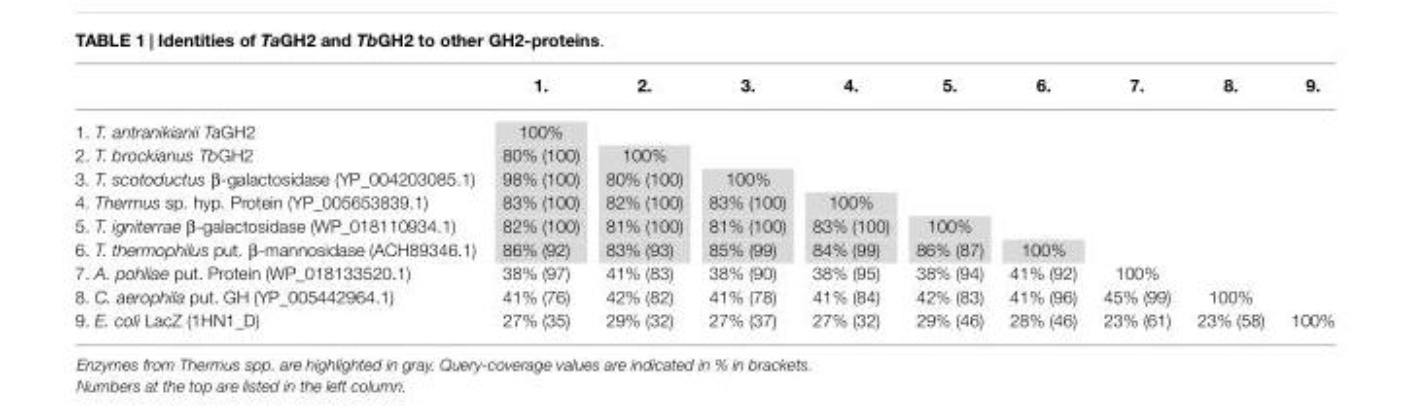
<table><thead><tr><td></td><td>1.</td><td>2.</td><td>3.</td><td>4.</td><td>5.</td><td>6.</td><td>7.</td><td>8.</td><td>9.</td></tr></thead><tbody><tr><td>1. T. antranikianii TaGH2</td><td>100%</td><td></td><td></td><td></td><td></td><td></td><td></td><td></td><td></td></tr><tr><td>2. T. brockianus TbGH2</td><td>80% (100)</td><td>100%</td><td></td><td></td><td></td><td></td><td></td><td></td><td></td></tr><tr><td>3. T. scotoductus β-galactosidase (YP_004203085.1)</td><td>98% (100)</td><td>80% (100)</td><td>100%</td><td></td><td></td><td></td><td></td><td></td><td></td></tr><tr><td>4. Thermus sp. hyp. Protein (YP_005653839.1)</td><td>83% (100)</td><td>82% (100)</td><td>83% (100)</td><td>100%</td><td></td><td></td><td></td><td></td><td></td></tr><tr><td>5. T. igniterrae β-galactosidase (WP_018110934.1)</td><td>82% (100)</td><td>81% (100)</td><td>81% (100)</td><td>83% (100)</td><td>100%</td><td></td><td></td><td></td><td></td></tr><tr><td>6. T. thermophilus put. β-mannosidase (ACH89346.1)</td><td>86% (92)</td><td>83% (93)</td><td>85% (99)</td><td>84% (99)</td><td>86% (87)</td><td>100%</td><td></td><td></td><td></td></tr><tr><td>7. A. pohliae put. Protein (WP_018133520.1)</td><td>38% (97)</td><td>41% (83)</td><td>38% (90)</td><td>38% (95)</td><td>38% (94)</td><td>41% (92)</td><td>100%</td><td></td><td></td></tr><tr><td>8. C. aerophila put. GH (YP_005442964.1)</td><td>41% (76)</td><td>42% (82)</td><td>41% (78)</td><td>41% (84)</td><td>42% (83)</td><td>41% (96)</td><td>45% (99)</td><td>100%</td><td></td></tr><tr><td>9. E. coli LacZ (1HN1_D)</td><td>27% (35)</td><td>29% (32)</td><td>27% (37)</td><td>27% (32)</td><td>29% (46)</td><td>28% (46)</td><td>23% (61)</td><td>23% (58)</td><td>100%</td></tr></tbody></table>